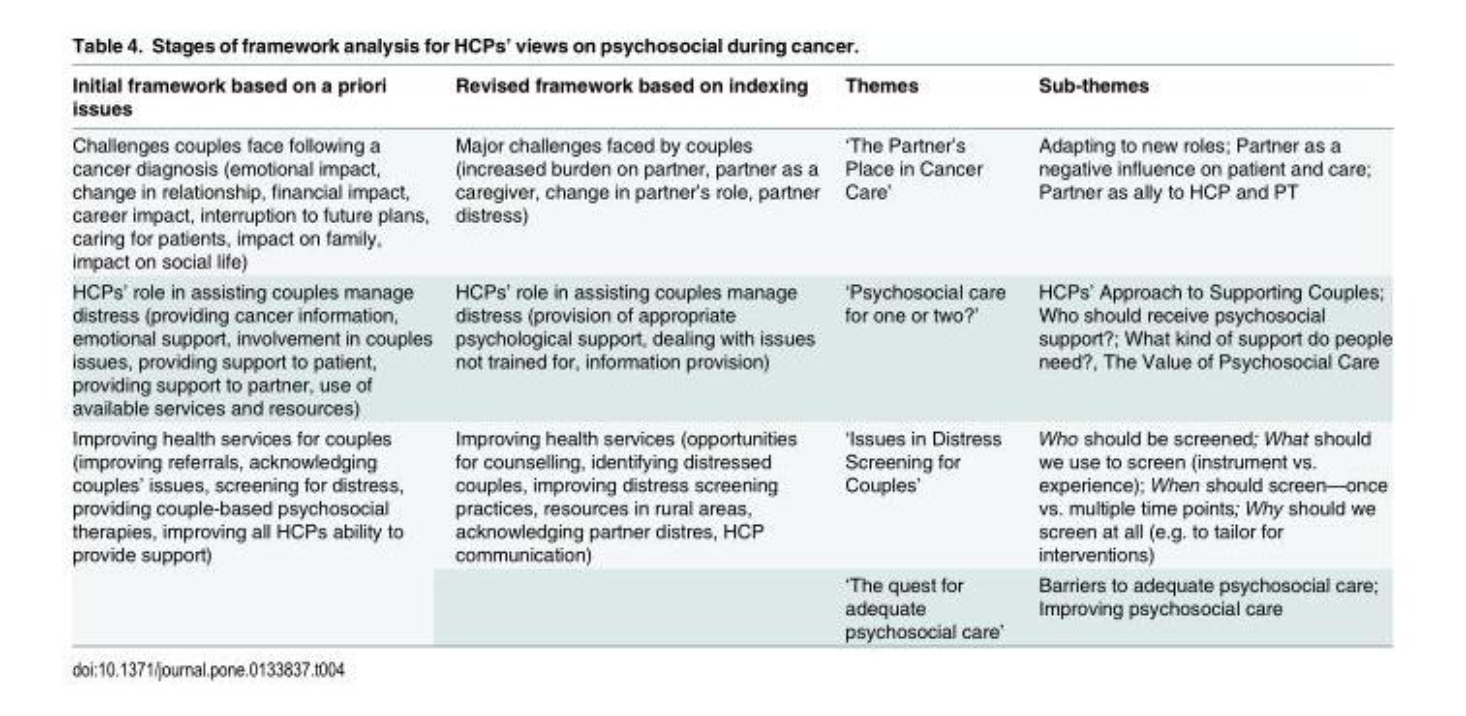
<table><thead><tr><td>Initial framework based on a priori issues</td><td>Revised framework based on indexing</td><td>Themes</td><td>Sub-themes</td></tr></thead><tbody><tr><td>Challenges couples face following a cancer diagnosis (emotional impact, change in relationship, financial impact, career impact, interruption to future plans, caring for patients, impact on family, impact on social life)</td><td>Major challenges faced by couples (increased burden on partner, partner as a caregiver, change in partner’s role, partner distress)</td><td>‘The Partner’s Place in Cancer Care’</td><td>Adapting to new roles; Partner as a negative influence on patient and care; Partner as ally to HCP and PT</td></tr><tr><td>HCPs’ role in assisting couples manage distress (providing cancer information, emotional support, involvement in couples issues, providing support to patient, providing support to partner, use of available services and resources)</td><td>HCPs’ role in assisting couples manage distress (provision of appropriate psychological support, dealing with issues not trained for, information provision)</td><td>‘Psychosocial care for one or two?’</td><td>HCPs’ Approach to Supporting Couples; Who should receive psychosocial support?; What kind of support do people need?, The Value of Psychosocial Care</td></tr><tr><td rowspan="2">Improving health services for couples (improving referrals, acknowledging couples’ issues, screening for distress, providing couple-based psychosocial therapies, improving all HCPs ability to provide support)</td><td>Improving health services (opportunities for counselling, identifying distressed couples, improving distress screening practices, resources in rural areas, acknowledging partner distres, HCP communication)</td><td>‘Issues in Distress Screening for Couples’</td><td>Who should be screened; What should we use to screen (instrument vs. experience); When should screen—once vs. multiple time points; Why should we screen at all (e.g. to tailor for interventions)</td></tr><tr><td></td><td>‘The quest for adequate psychosocial care’</td><td>Barriers to adequate psychosocial care; Improving psychosocial care</td></tr></tbody></table>